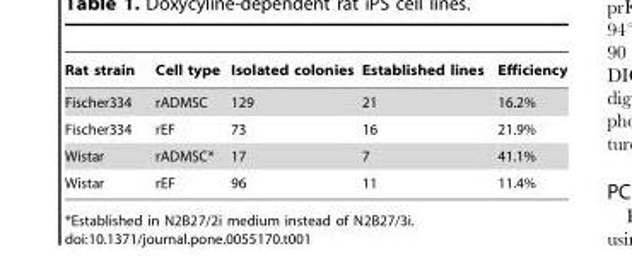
<table><thead><tr><td>Rat strain</td><td>Cell type</td><td>Isolated colonies</td><td>Established lines</td><td>Efficiency</td></tr></thead><tbody><tr><td>Fischer334</td><td>rADMSC</td><td>129</td><td>21</td><td>16.2%</td></tr><tr><td>Fischer334</td><td>rEF</td><td>73</td><td>16</td><td>21.9%</td></tr><tr><td>Wistar</td><td>rADMSC*</td><td>17</td><td>7</td><td>41.1%</td></tr><tr><td>Wistar</td><td>rEF</td><td>96</td><td>11</td><td>11.4%</td></tr></tbody></table>